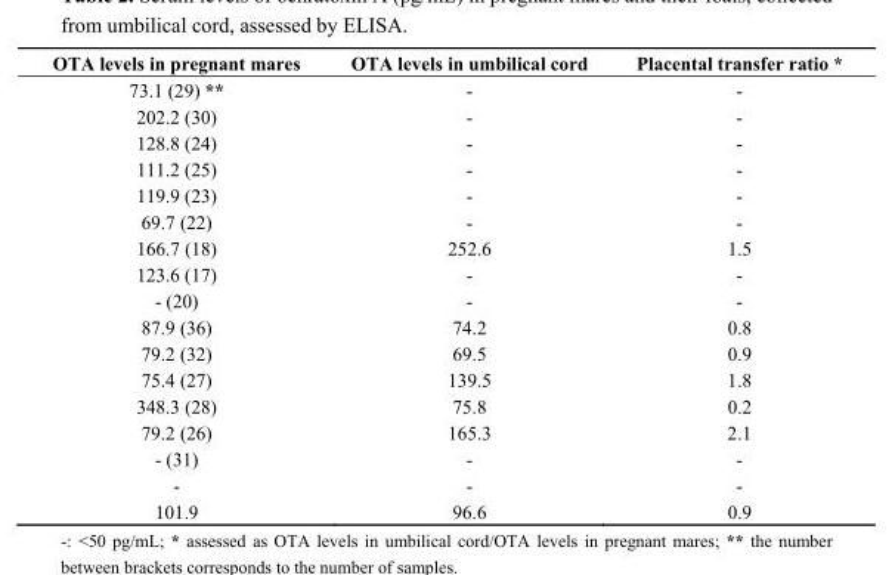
<table><thead><tr><td>OTA levels in pregnant mares</td><td>OTA levels in umbilical cord</td><td>Placental transfer ratio *</td></tr></thead><tbody><tr><td>73.1 (29) **</td><td>-</td><td>-</td></tr><tr><td>202.2 (30)</td><td>-</td><td>-</td></tr><tr><td>128.8 (24)</td><td>-</td><td>-</td></tr><tr><td>111.2 (25)</td><td>-</td><td>-</td></tr><tr><td>119.9 (23)</td><td>-</td><td>-</td></tr><tr><td>69.7 (22)</td><td>-</td><td>-</td></tr><tr><td>166.7 (18)</td><td>252.6</td><td>1.5</td></tr><tr><td>123.6 (17)</td><td>-</td><td>-</td></tr><tr><td>- (20)</td><td>-</td><td>-</td></tr><tr><td>87.9 (36)</td><td>74.2</td><td>0.8</td></tr><tr><td>79.2 (32)</td><td>69.5</td><td>0.9</td></tr><tr><td>75.4 (27)</td><td>139.5</td><td>1.8</td></tr><tr><td>348.3 (28)</td><td>75.8</td><td>0.2</td></tr><tr><td>79.2 (26)</td><td>165.3</td><td>2.1</td></tr><tr><td>- (31)</td><td>-</td><td>-</td></tr><tr><td>-</td><td>-</td><td>-</td></tr><tr><td>101.9</td><td>96.6</td><td>0.9</td></tr></tbody></table>